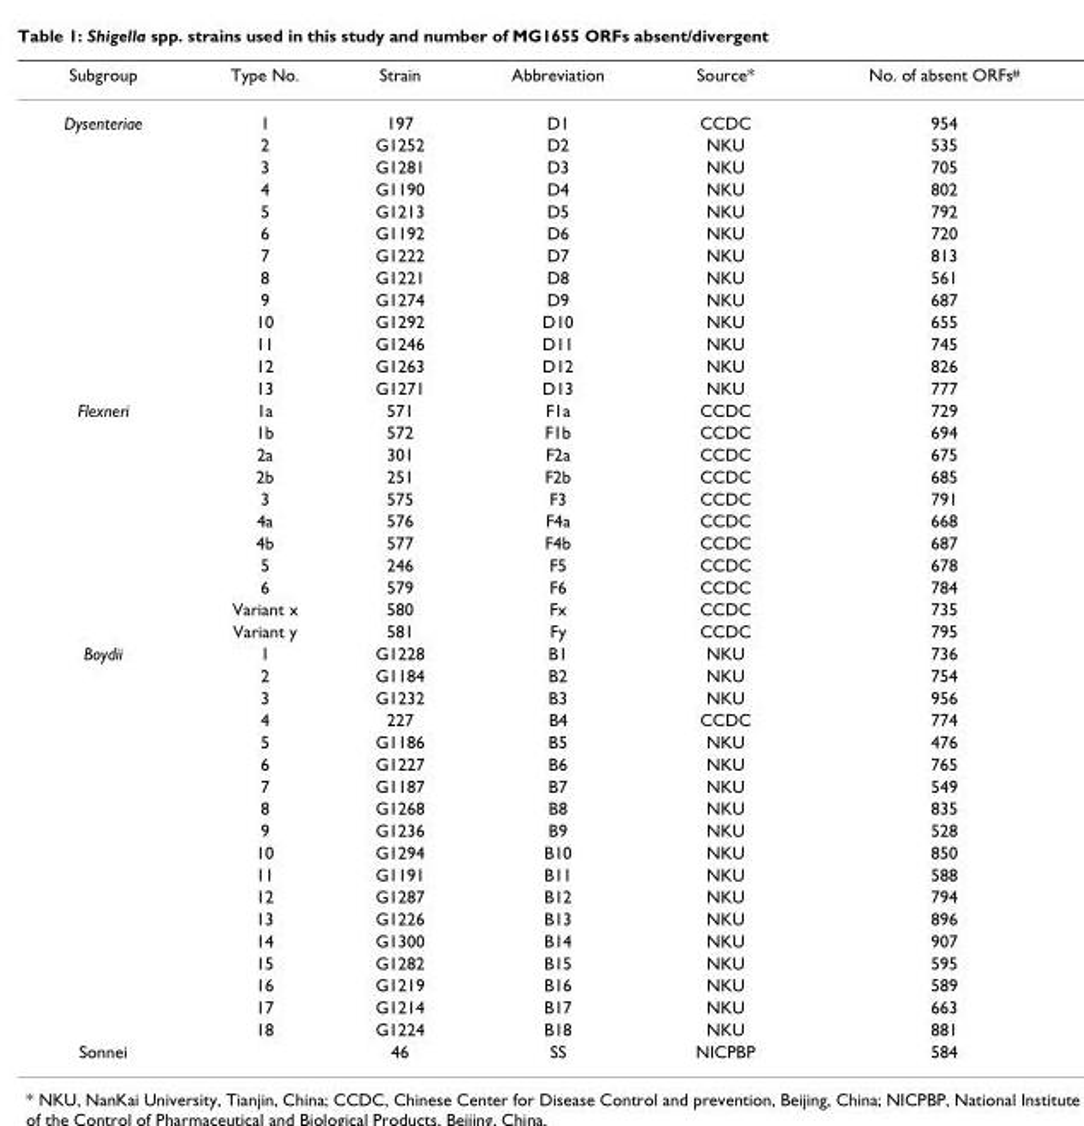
<table><thead><tr><td>Subgroup</td><td>Type No.</td><td>Strain</td><td>Abbreviation</td><td>Source*</td><td>No. of absent ORFs<sup>#</sup></td></tr></thead><tbody><tr><td rowspan="13">Dysenteriae</td><td>1</td><td>197</td><td>D1</td><td>CCDC</td><td>954</td></tr><tr><td>2</td><td>G1252</td><td>D2</td><td>NKU</td><td>535</td></tr><tr><td>3</td><td>G1281</td><td>D3</td><td>NKU</td><td>705</td></tr><tr><td>4</td><td>G1190</td><td>D4</td><td>NKU</td><td>802</td></tr><tr><td>5</td><td>G1213</td><td>D5</td><td>NKU</td><td>792</td></tr><tr><td>6</td><td>G1192</td><td>D6</td><td>NKU</td><td>720</td></tr><tr><td>7</td><td>G1222</td><td>D7</td><td>NKU</td><td>813</td></tr><tr><td>8</td><td>G1221</td><td>D8</td><td>NKU</td><td>561</td></tr><tr><td>9</td><td>G1274</td><td>D9</td><td>NKU</td><td>687</td></tr><tr><td>10</td><td>G1292</td><td>D10</td><td>NKU</td><td>655</td></tr><tr><td>11</td><td>G1246</td><td>D11</td><td>NKU</td><td>745</td></tr><tr><td>12</td><td>G1263</td><td>D12</td><td>NKU</td><td>826</td></tr><tr><td>13</td><td>G1271</td><td>D13</td><td>NKU</td><td>777</td></tr><tr><td rowspan="11">Flexneri</td><td>1a</td><td>571</td><td>F1a</td><td>CCDC</td><td>729</td></tr><tr><td>1b</td><td>572</td><td>F1b</td><td>CCDC</td><td>694</td></tr><tr><td>2a</td><td>301</td><td>F2a</td><td>CCDC</td><td>675</td></tr><tr><td>2b</td><td>251</td><td>F2b</td><td>CCDC</td><td>685</td></tr><tr><td>3</td><td>575</td><td>F3</td><td>CCDC</td><td>791</td></tr><tr><td>4a</td><td>576</td><td>F4a</td><td>CCDC</td><td>668</td></tr><tr><td>4b</td><td>577</td><td>F4b</td><td>CCDC</td><td>687</td></tr><tr><td>5</td><td>246</td><td>F5</td><td>CCDC</td><td>678</td></tr><tr><td>6</td><td>579</td><td>F6</td><td>CCDC</td><td>784</td></tr><tr><td>Variant x</td><td>580</td><td>Fx</td><td>CCDC</td><td>735</td></tr><tr><td>Variant y</td><td>581</td><td>Fy</td><td>CCDC</td><td>795</td></tr><tr><td rowspan="18">Boydii</td><td>1</td><td>G1228</td><td>B1</td><td>NKU</td><td>736</td></tr><tr><td>2</td><td>G1184</td><td>B2</td><td>NKU</td><td>754</td></tr><tr><td>3</td><td>G1232</td><td>B3</td><td>NKU</td><td>956</td></tr><tr><td>4</td><td>227</td><td>B4</td><td>CCDC</td><td>774</td></tr><tr><td>5</td><td>G1186</td><td>B5</td><td>NKU</td><td>476</td></tr><tr><td>6</td><td>G1227</td><td>B6</td><td>NKU</td><td>765</td></tr><tr><td>7</td><td>G1187</td><td>B7</td><td>NKU</td><td>549</td></tr><tr><td>8</td><td>G1268</td><td>B8</td><td>NKU</td><td>835</td></tr><tr><td>9</td><td>G1236</td><td>B9</td><td>NKU</td><td>528</td></tr><tr><td>10</td><td>G1294</td><td>B10</td><td>NKU</td><td>850</td></tr><tr><td>11</td><td>G1191</td><td>B11</td><td>NKU</td><td>588</td></tr><tr><td>12</td><td>G1287</td><td>B12</td><td>NKU</td><td>794</td></tr><tr><td>13</td><td>G1226</td><td>B13</td><td>NKU</td><td>896</td></tr><tr><td>14</td><td>G1300</td><td>B14</td><td>NKU</td><td>907</td></tr><tr><td>15</td><td>G1282</td><td>B15</td><td>NKU</td><td>595</td></tr><tr><td>16</td><td>G1219</td><td>B16</td><td>NKU</td><td>589</td></tr><tr><td>17</td><td>G1214</td><td>B17</td><td>NKU</td><td>663</td></tr><tr><td>18</td><td>G1224</td><td>B18</td><td>NKU</td><td>881</td></tr><tr><td>Sonnei</td><td></td><td>46</td><td>SS</td><td>NICPBP</td><td>584</td></tr></tbody></table>